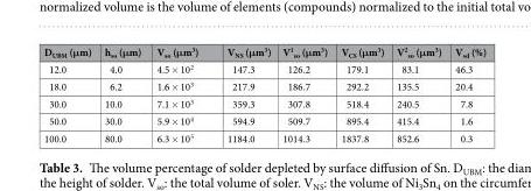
<table><thead><tr><td>D<sub>UBM</sub> (μm)</td><td>h<sub>so</sub> (μm)</td><td>V<sub>so</sub> (μm<sup>3</sup>)</td><td>V<sub>NS</sub> (μm<sup>3</sup>)</td><td>V<sup>1</sup> <sub>so</sub> (μm<sup>3</sup>)</td><td>V<sub>CS</sub> (μm<sup>3</sup>)</td><td>V<sup>2</sup> <sub>so</sub> (μm<sup>3</sup>)</td><td>V<sub>sd</sub> (%)</td></tr></thead><tbody><tr><td>12.0</td><td>4.0</td><td>4.5 × 10<sup>2</sup></td><td>147.3</td><td>126.2</td><td>179.1</td><td>83.1</td><td>46.3</td></tr><tr><td>18.0</td><td>6.2</td><td>1.6 × 10<sup>3</sup></td><td>217.9</td><td>186.7</td><td>292.2</td><td>135.5</td><td>20.4</td></tr><tr><td>30.0</td><td>10.0</td><td>7.1 × 10<sup>3</sup></td><td>359.3</td><td>307.8</td><td>518.4</td><td>240.5</td><td>7.8</td></tr><tr><td>50.0</td><td>30.0</td><td>5.9 × 10<sup>4</sup></td><td>594.9</td><td>509.7</td><td>895.4</td><td>415.4</td><td>1.6</td></tr><tr><td>100.0</td><td>80.0</td><td>6.3 × 10<sup>5</sup></td><td>1184.0</td><td>1014.3</td><td>1837.8</td><td>852.6</td><td>0.3</td></tr></tbody></table>